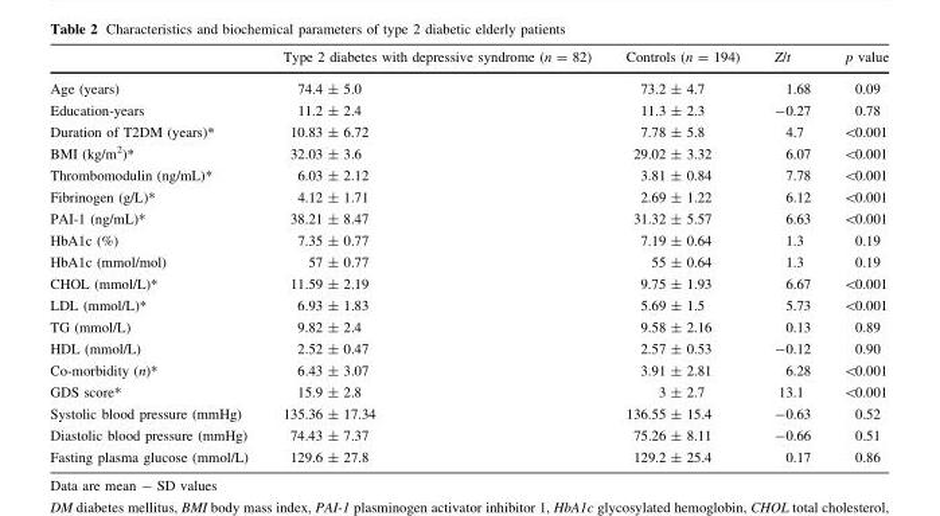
<table><thead><tr><td></td><td>Type 2 diabetes with depressive syndrome (n = 82)</td><td>Controls (n = 194)</td><td>Z/t</td><td>p value</td></tr></thead><tbody><tr><td>Age (years)</td><td>74.4 ± 5.0</td><td>73.2 ± 4.7</td><td>1.68</td><td>0.09</td></tr><tr><td>Education-years</td><td>11.2 ± 2.4</td><td>11.3 ± 2.3</td><td>-0.27</td><td>0.78</td></tr><tr><td>Duration of T2DM (years)*</td><td>10.83 ± 6.72</td><td>7.78 ± 5.8</td><td>4.7</td><td>&lt;0.001</td></tr><tr><td>BMI (kg/m<sup>2</sup>)*</td><td>32.03 ± 3.6</td><td>29.02 ± 3.32</td><td>6.07</td><td>&lt;0.001</td></tr><tr><td>Thrombomodulin (ng/mL)*</td><td>6.03 ± 2.12</td><td>3.81 ± 0.84</td><td>7.78</td><td>&lt;0.001</td></tr><tr><td>Fibrinogen (g/L)*</td><td>4.12 ± 1.71</td><td>2.69 ± 1.22</td><td>6.12</td><td>&lt;0.001</td></tr><tr><td>PAI-1 (ng/mL)*</td><td>38.21 ± 8.47</td><td>31.32 ± 5.57</td><td>6.63</td><td>&lt;0.001</td></tr><tr><td>HbA1c (%)</td><td>7.35 ± 0.77</td><td>7.19 ± 0.64</td><td>1.3</td><td>0.19</td></tr><tr><td>HbA1c (mmol/mol)</td><td>57 ± 0.77</td><td>55 ± 0.64</td><td>1.3</td><td>0.19</td></tr><tr><td>CHOL (mmol/L)*</td><td>11.59 ± 2.19</td><td>9.75 ± 1.93</td><td>6.67</td><td>&lt;0.001</td></tr><tr><td>LDL (mmol/L)*</td><td>6.93 ± 1.83</td><td>5.69 ± 1.5</td><td>5.73</td><td>&lt;0.001</td></tr><tr><td>TG (mmol/L)</td><td>9.82 ± 2.4</td><td>9.58 ± 2.16</td><td>0.13</td><td>0.89</td></tr><tr><td>HDL (mmol/L)</td><td>2.52 ± 0.47</td><td>2.57 ± 0.53</td><td>-0.12</td><td>0.90</td></tr><tr><td>Co-morbidity (n)*</td><td>6.43 ± 3.07</td><td>3.91 ± 2.81</td><td>6.28</td><td>&lt;0.001</td></tr><tr><td>GDS score*</td><td>15.9 ± 2.8</td><td>3 ± 2.7</td><td>13.1</td><td>&lt;0.001</td></tr><tr><td>Systolic blood pressure (mmHg)</td><td>135.36 ± 17.34</td><td>136.55 ± 15.4</td><td>-0.63</td><td>0.52</td></tr><tr><td>Diastolic blood pressure (mmHg)</td><td>74.43 ± 7.37</td><td>75.26 ± 8.11</td><td>-0.66</td><td>0.51</td></tr><tr><td>Fasting plasma glucose (mmol/L)</td><td>129.6 ± 27.8</td><td>129.2 ± 25.4</td><td>0.17</td><td>0.86</td></tr></tbody></table>